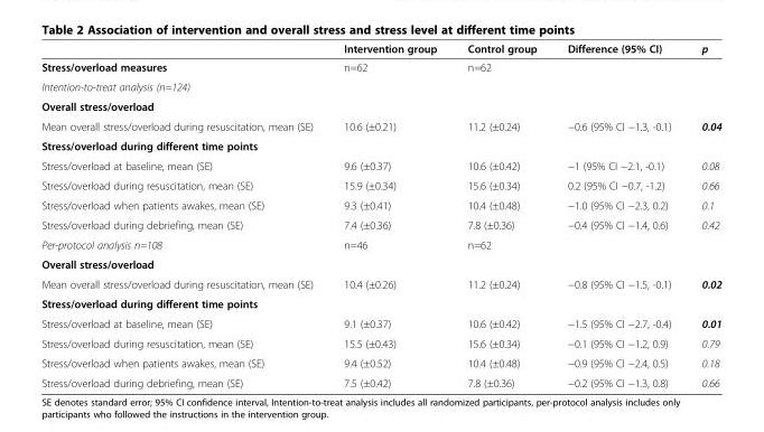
<table><thead><tr><td></td><td>Intervention group</td><td>Control group</td><td>Difference (95% CI)</td><td>p</td></tr></thead><tbody><tr><td>Stress/overload measures</td><td>n=62</td><td>n=62</td><td></td><td></td></tr><tr><td colspan="5">Intention-to-treat analysis (n=124)</td></tr><tr><td colspan="5">Overall stress/overload</td></tr><tr><td>Mean overall stress/overload during resuscitation, mean (SE)</td><td>10.6 (±0.21)</td><td>11.2 (±0.24)</td><td>−0.6 (95% CI −1.3, -0.1)</td><td>0.04</td></tr><tr><td colspan="5">Stress/overload during different time points</td></tr><tr><td>Stress/overload at baseline, mean (SE)</td><td>9.6 (±0.37)</td><td>10.6 (±0.42)</td><td>−1 (95% CI −2.1, -0.1)</td><td>0.08</td></tr><tr><td>Stress/overload during resuscitation, mean (SE)</td><td>15.9 (±0.34)</td><td>15.6 (±0.34)</td><td>0.2 (95% CI −0.7, -1.2)</td><td>0.66</td></tr><tr><td>Stress/overload when patients awakes, mean (SE)</td><td>9.3 (±0.41)</td><td>10.4 (±0.48)</td><td>−1.0 (95% CI −2.3, 0.2)</td><td>0.1</td></tr><tr><td>Stress/overload during debriefing, mean (SE)</td><td>7.4 (±0.36)</td><td>7.8 (±0.36)</td><td>−0.4 (95% CI −1.4, 0.6)</td><td>0.42</td></tr><tr><td>Per-protocol analysis n=108</td><td>n=46</td><td>n=62</td><td></td><td></td></tr><tr><td colspan="5">Overall stress/overload</td></tr><tr><td>Mean overall stress/overload during resuscitation, mean (SE)</td><td>10.4 (±0.26)</td><td>11.2 (±0.24)</td><td>−0.8 (95% CI −1.5, -0.1)</td><td>0.02</td></tr><tr><td colspan="5">Stress/overload during different time points</td></tr><tr><td>Stress/overload at baseline, mean (SE)</td><td>9.1 (±0.37)</td><td>10.6 (±0.42)</td><td>−1.5 (95% CI −2.7, -0.4)</td><td>0.01</td></tr><tr><td>Stress/overload during resuscitation, mean (SE)</td><td>15.5 (±0.43)</td><td>15.6 (±0.34)</td><td>−0.1 (95% CI −1.2, 0.9)</td><td>0.79</td></tr><tr><td>Stress/overload when patients awakes, mean (SE)</td><td>9.4 (±0.52)</td><td>10.4 (±0.48)</td><td>−0.9 (95% CI −2.4, 0.5)</td><td>0.18</td></tr><tr><td>Stress/overload during debriefing, mean (SE)</td><td>7.5 (±0.42)</td><td>7.8 (±0.36)</td><td>−0.2 (95% CI −1.3, 0.8)</td><td>0.66</td></tr></tbody></table>